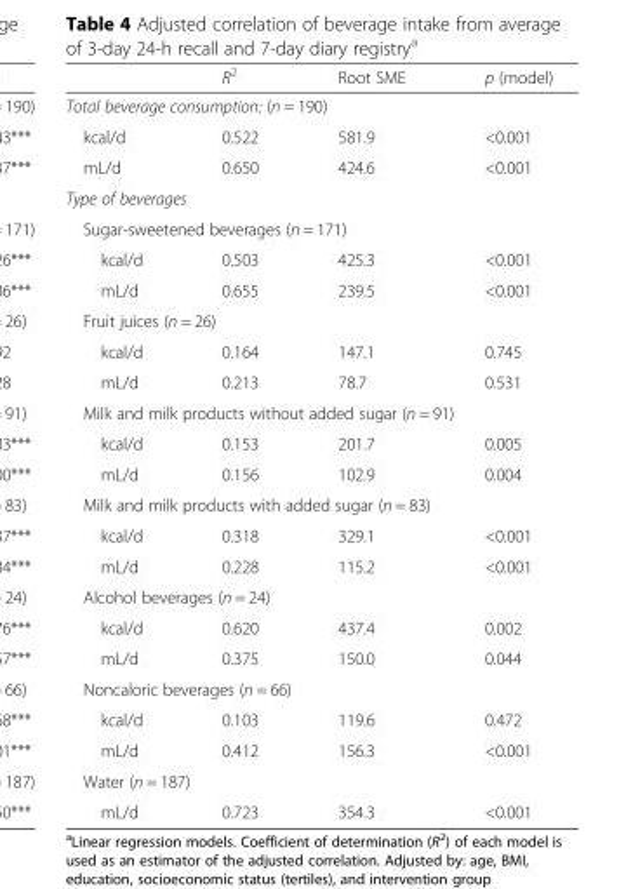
<table><thead><tr><td></td><td>R<sup>2</sup></td><td>Root SME</td><td>p (model)</td></tr></thead><tbody><tr><td colspan="4">Total beverage consumption: (n = 190)</td></tr><tr><td>kcal/d</td><td>0.522</td><td>581.9</td><td>&lt;0.001</td></tr><tr><td>mL/d</td><td>0.650</td><td>424.6</td><td>&lt;0.001</td></tr><tr><td colspan="4">Type of beverages</td></tr><tr><td colspan="4">Sugar-sweetened beverages (n = 171)</td></tr><tr><td>kcal/d</td><td>0.503</td><td>425.3</td><td>&lt;0.001</td></tr><tr><td>mL/d</td><td>0.655</td><td>239.5</td><td>&lt;0.001</td></tr><tr><td colspan="4">Fruit juices (n = 26)</td></tr><tr><td>kcal/d</td><td>0.164</td><td>147.1</td><td>0.745</td></tr><tr><td>mL/d</td><td>0.213</td><td>78.7</td><td>0.531</td></tr><tr><td colspan="4">Milk and milk products without added sugar (n = 91)</td></tr><tr><td>kcal/d</td><td>0.153</td><td>201.7</td><td>0.005</td></tr><tr><td>mL/d</td><td>0.156</td><td>102.9</td><td>0.004</td></tr><tr><td colspan="4">Milk and milk products with added sugar (n = 83)</td></tr><tr><td>kcal/d</td><td>0.318</td><td>329.1</td><td>&lt;0.001</td></tr><tr><td>mL/d</td><td>0.228</td><td>115.2</td><td>&lt;0.001</td></tr><tr><td colspan="4">Alcohol beverages (n = 24)</td></tr><tr><td>kcal/d</td><td>0.620</td><td>437.4</td><td>0.002</td></tr><tr><td>mL/d</td><td>0.375</td><td>150.0</td><td>0.044</td></tr><tr><td colspan="4">Noncaloric beverages (n = 66)</td></tr><tr><td>kcal/d</td><td>0.103</td><td>119.6</td><td>0.472</td></tr><tr><td>mL/d</td><td>0.412</td><td>156.3</td><td>&lt;0.001</td></tr><tr><td colspan="4">Water (n = 187)</td></tr><tr><td>mL/d</td><td>0.723</td><td>354.3</td><td>&lt;0.001</td></tr></tbody></table>